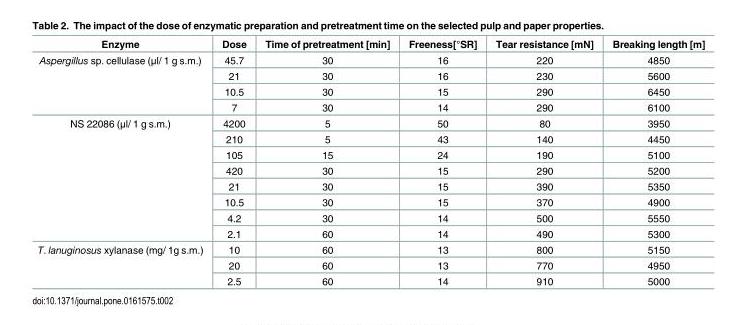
<table><thead><tr><td>Enzyme</td><td>Dose</td><td>Time of pretreatment [min]</td><td>Freeness[°SR]</td><td>Tear resistance [mN]</td><td>Breaking length [m]</td></tr></thead><tbody><tr><td rowspan="4">Aspergillus sp. cellulase (μl/ 1 g s.m.)</td><td>45.7</td><td>30</td><td>16</td><td>220</td><td>4850</td></tr><tr><td>21</td><td>30</td><td>16</td><td>230</td><td>5600</td></tr><tr><td>10.5</td><td>30</td><td>15</td><td>290</td><td>6450</td></tr><tr><td>7</td><td>30</td><td>14</td><td>290</td><td>6100</td></tr><tr><td rowspan="8">NS 22086 (μl/ 1 g s.m.)</td><td>4200</td><td>5</td><td>50</td><td>80</td><td>3950</td></tr><tr><td>210</td><td>5</td><td>43</td><td>140</td><td>4450</td></tr><tr><td>105</td><td>15</td><td>24</td><td>190</td><td>5100</td></tr><tr><td>420</td><td>30</td><td>15</td><td>290</td><td>5200</td></tr><tr><td>21</td><td>30</td><td>15</td><td>390</td><td>5350</td></tr><tr><td>10.5</td><td>30</td><td>15</td><td>370</td><td>4900</td></tr><tr><td>4.2</td><td>30</td><td>14</td><td>500</td><td>5550</td></tr><tr><td>2.1</td><td>60</td><td>14</td><td>490</td><td>5300</td></tr><tr><td rowspan="3">T. lanuginosus xylanase (mg/ 1g s.m.)</td><td>10</td><td>60</td><td>13</td><td>800</td><td>5150</td></tr><tr><td>20</td><td>60</td><td>13</td><td>770</td><td>4950</td></tr><tr><td>2.5</td><td>60</td><td>14</td><td>910</td><td>5000</td></tr></tbody></table>